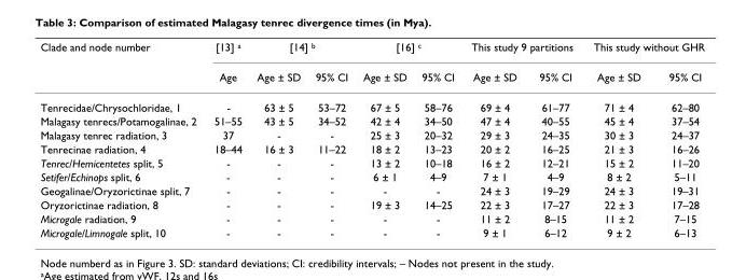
<table><thead><tr><td rowspan="2">Clade and node number</td><td rowspan="2">[13] <sup>a</sup> Age</td><td colspan="2">[14] <sup>b</sup></td><td colspan="2">[16] <sup>c</sup></td><td colspan="2">This study 9 partitions</td><td colspan="2">This study without GHR</td></tr><tr><td>Age ± SD</td><td>95% CI</td><td>Age ± SD</td><td>95% CI</td><td>Age ± SD</td><td>95% CI</td><td>Age ± SD</td><td>95% CI</td></tr></thead><tbody><tr><td>Tenrecidae/Chrysochloridae, 1</td><td>-</td><td>63 ± 5</td><td>53–72</td><td>67 ± 5</td><td>58–76</td><td>69 ± 4</td><td>61–77</td><td>71 ± 4</td><td>62–80</td></tr><tr><td>Malagasy tenrecs/Potamogalinae, 2</td><td>51–55</td><td>43 ± 5</td><td>34–52</td><td>42 ± 4</td><td>34–50</td><td>47 ± 4</td><td>40–55</td><td>45 ± 4</td><td>37–54</td></tr><tr><td>Malagasy tenrec radiation, 3</td><td>37</td><td>-</td><td>-</td><td>25 ± 3</td><td>20–32</td><td>29 ± 3</td><td>24–35</td><td>30 ± 3</td><td>24–37</td></tr><tr><td>Tenrecinae radiation, 4</td><td>18–44</td><td>16 ± 3</td><td>11–22</td><td>18 ± 2</td><td>13–23</td><td>20 ± 2</td><td>16–25</td><td>21 ± 3</td><td>16–26</td></tr><tr><td>Tenrec/Hemicentetes split, 5</td><td>-</td><td>-</td><td>-</td><td>13 ± 2</td><td>10–18</td><td>16 ± 2</td><td>12–21</td><td>15 ± 2</td><td>11–20</td></tr><tr><td>Setifer/Echinops split, 6</td><td>-</td><td>-</td><td>-</td><td>6 ± 1</td><td>4–9</td><td>7 ± 1</td><td>4–9</td><td>8 ± 2</td><td>5–11</td></tr><tr><td>Geogalinae/Oryzorictinae split, 7</td><td>-</td><td>-</td><td>-</td><td>-</td><td>-</td><td>24 ± 3</td><td>19–29</td><td>24 ± 3</td><td>19–31</td></tr><tr><td>Oryzorictinae radiation, 8</td><td>-</td><td>-</td><td>-</td><td>19 ± 3</td><td>14–25</td><td>22 ± 3</td><td>17–27</td><td>22 ± 3</td><td>17–28</td></tr><tr><td>Microgale radiation, 9</td><td>-</td><td>-</td><td>-</td><td>-</td><td>-</td><td>11 ± 2</td><td>8–15</td><td>11 ± 2</td><td>7–15</td></tr><tr><td>Microgale/Limnogale split, 10</td><td>-</td><td>-</td><td>-</td><td>-</td><td>-</td><td>9 ± 1</td><td>6–12</td><td>9 ± 2</td><td>6–13</td></tr></tbody></table>